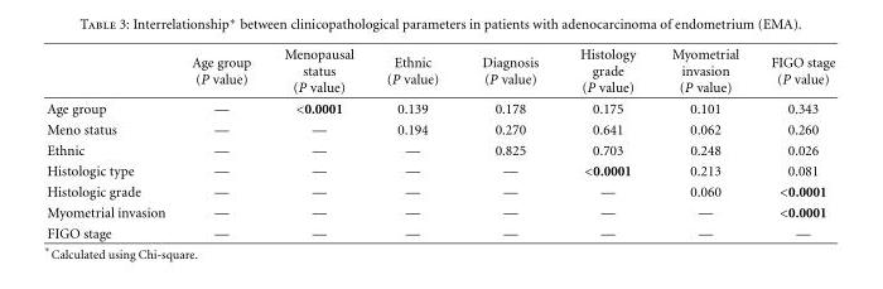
<table><thead><tr><td></td><td>Age group (P value)</td><td>Menopausal status (P value)</td><td>Ethnic (P value)</td><td>Diagnosis (P value)</td><td>Histology grade (P value)</td><td>Myometrial invasion (P value)</td><td>FIGO stage (P value)</td></tr></thead><tbody><tr><td>Age group</td><td>—</td><td>&lt;0.0001</td><td>0.139</td><td>0.178</td><td>0.175</td><td>0.101</td><td>0.343</td></tr><tr><td>Meno status</td><td>—</td><td>—</td><td>0.194</td><td>0.270</td><td>0.641</td><td>0.062</td><td>0.260</td></tr><tr><td>Ethnic</td><td>—</td><td>—</td><td>—</td><td>0.825</td><td>0.703</td><td>0.248</td><td>0.026</td></tr><tr><td>Histologic type</td><td>—</td><td>—</td><td>—</td><td>—</td><td>&lt;0.0001</td><td>0.213</td><td>0.081</td></tr><tr><td>Histologic grade</td><td>—</td><td>—</td><td>—</td><td>—</td><td>—</td><td>0.060</td><td>&lt;0.0001</td></tr><tr><td>Myometrial invasion</td><td>—</td><td>—</td><td>—</td><td>—</td><td>—</td><td>—</td><td>&lt;0.0001</td></tr><tr><td>FIGO stage</td><td>—</td><td>—</td><td>—</td><td>—</td><td>—</td><td>—</td><td>—</td></tr></tbody></table>